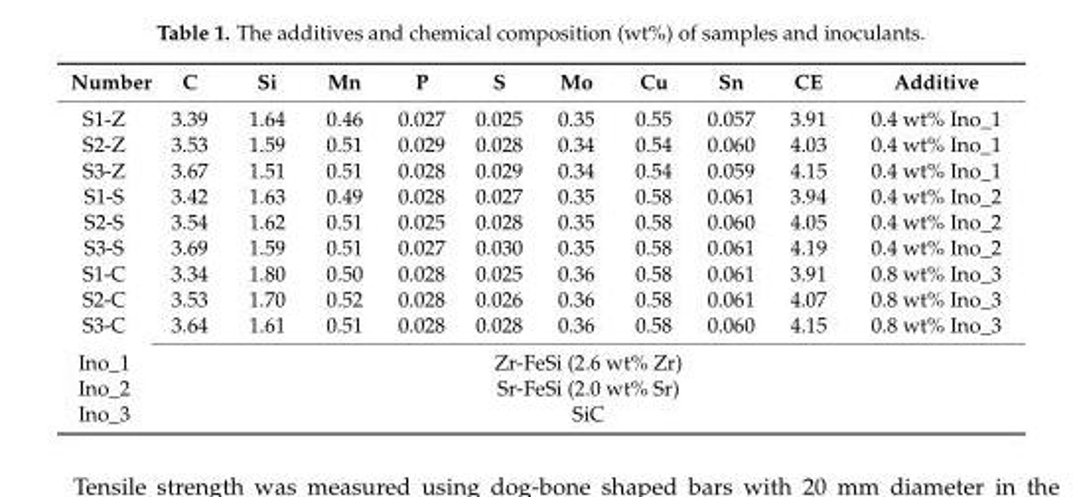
<table><thead><tr><td>Number</td><td>C</td><td>Si</td><td>Mn</td><td>P</td><td>S</td><td>Mo</td><td>Cu</td><td>Sn</td><td>CE</td><td>Additive</td></tr></thead><tbody><tr><td>S1-Z</td><td>3.39</td><td>1.64</td><td>0.46</td><td>0.027</td><td>0.025</td><td>0.35</td><td>0.55</td><td>0.057</td><td>3.91</td><td>0.4 wt% Ino_1</td></tr><tr><td>S2-Z</td><td>3.53</td><td>1.59</td><td>0.51</td><td>0.029</td><td>0.028</td><td>0.34</td><td>0.54</td><td>0.060</td><td>4.03</td><td>0.4 wt% Ino_1</td></tr><tr><td>S3-Z</td><td>3.67</td><td>1.51</td><td>0.51</td><td>0.028</td><td>0.029</td><td>0.34</td><td>0.54</td><td>0.059</td><td>4.15</td><td>0.4 wt% Ino_1</td></tr><tr><td>S1-S</td><td>3.42</td><td>1.63</td><td>0.49</td><td>0.028</td><td>0.027</td><td>0.35</td><td>0.58</td><td>0.061</td><td>3.94</td><td>0.4 wt% Ino_2</td></tr><tr><td>S2-S</td><td>3.54</td><td>1.62</td><td>0.51</td><td>0.025</td><td>0.028</td><td>0.35</td><td>0.58</td><td>0.060</td><td>4.05</td><td>0.4 wt% Ino_2</td></tr><tr><td>S3-S</td><td>3.69</td><td>1.59</td><td>0.51</td><td>0.027</td><td>0.030</td><td>0.35</td><td>0.58</td><td>0.061</td><td>4.19</td><td>0.4 wt% Ino_2</td></tr><tr><td>S1-C</td><td>3.34</td><td>1.80</td><td>0.50</td><td>0.028</td><td>0.025</td><td>0.36</td><td>0.58</td><td>0.061</td><td>3.91</td><td>0.8 wt% Ino_3</td></tr><tr><td>S2-C</td><td>3.53</td><td>1.70</td><td>0.52</td><td>0.028</td><td>0.026</td><td>0.36</td><td>0.58</td><td>0.061</td><td>4.07</td><td>0.8 wt% Ino_3</td></tr><tr><td>S3-C</td><td>3.64</td><td>1.61</td><td>0.51</td><td>0.028</td><td>0.028</td><td>0.36</td><td>0.58</td><td>0.060</td><td>4.15</td><td>0.8 wt% Ino_3</td></tr><tr><td>Ino_1</td><td colspan="10">Zr-FeSi (2.6 wt% Zr)</td></tr><tr><td>Ino_2</td><td colspan="10">Sr-FeSi (2.0 wt% Sr)</td></tr><tr><td>Ino_3</td><td colspan="10">SiC</td></tr></tbody></table>